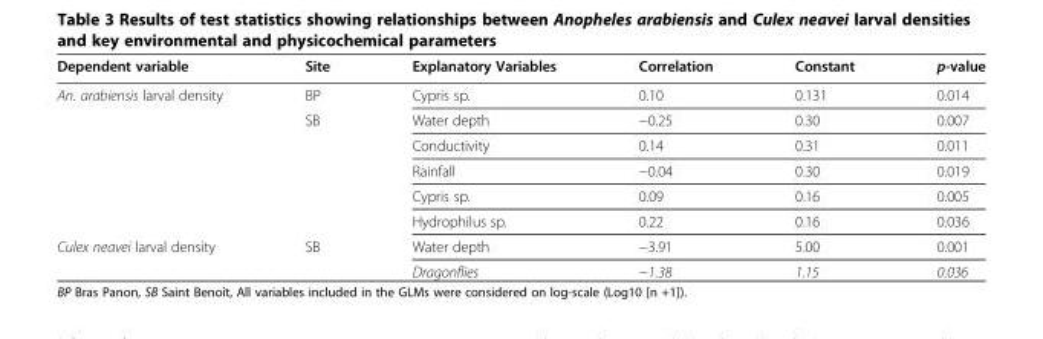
<table><thead><tr><td>Dependent variable</td><td>Site</td><td>Explanatory Variables</td><td>Correlation</td><td>Constant</td><td>p-value</td></tr></thead><tbody><tr><td rowspan="6">An. arabiensis larval density</td><td>BP</td><td>Cypris sp.</td><td>0.10</td><td>0.131</td><td>0.014</td></tr><tr><td rowspan="5">SB</td><td>Water depth</td><td>−0.25</td><td>0.30</td><td>0.007</td></tr><tr><td>Conductivity</td><td>0.14</td><td>0.31</td><td>0.011</td></tr><tr><td>Rainfall</td><td>−0.04</td><td>0.30</td><td>0.019</td></tr><tr><td>Cypris sp.</td><td>0.09</td><td>0.16</td><td>0.005</td></tr><tr><td>Hydrophilus sp.</td><td>0.22</td><td>0.16</td><td>0.036</td></tr><tr><td rowspan="2">Culex neavei larval density</td><td rowspan="2">SB</td><td>Water depth</td><td>−3.91</td><td>5.00</td><td>0.001</td></tr><tr><td>Dragonflies</td><td>−1.38</td><td>1.15</td><td>0.036</td></tr></tbody></table>